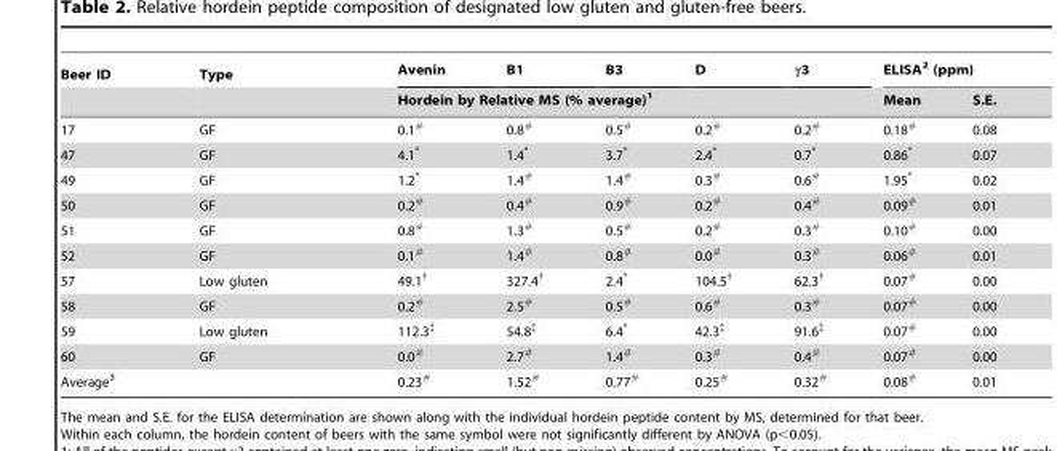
<table><thead><tr><td rowspan="2">Beer ID</td><td rowspan="2">Type</td><td>Avenin</td><td>B1</td><td>B3</td><td>D</td><td>γ3</td><td colspan="2">ELISA<sup>2</sup> (ppm)</td></tr><tr><td colspan="5">Hordein by Relative MS (% average)<sup>1</sup></td><td>Mean</td><td>S.E.</td></tr></thead><tbody><tr><td>17</td><td>GF</td><td>0.1<sup>#</sup></td><td>0.8<sup>#</sup></td><td>0.5<sup>#</sup></td><td>0.2<sup>#</sup></td><td>0.2<sup>#</sup></td><td>0.18<sup>#</sup></td><td>0.08</td></tr><tr><td>47</td><td>GF</td><td>4.1*</td><td>1.4*</td><td>3.7*</td><td>2.4*</td><td>0.7*</td><td>0.86*</td><td>0.07</td></tr><tr><td>49</td><td>GF</td><td>1.2*</td><td>1.4<sup>#</sup></td><td>1.4<sup>#</sup></td><td>0.3<sup>#</sup></td><td>0.6<sup>#</sup></td><td>1.95*</td><td>0.02</td></tr><tr><td>50</td><td>GF</td><td>0.2<sup>#</sup></td><td>0.4<sup>#</sup></td><td>0.9<sup>#</sup></td><td>0.2<sup>#</sup></td><td>0.4<sup>#</sup></td><td>0.09<sup>#</sup></td><td>0.01</td></tr><tr><td>51</td><td>GF</td><td>0.8<sup>#</sup></td><td>1.3<sup>#</sup></td><td>0.5<sup>#</sup></td><td>0.2<sup>#</sup></td><td>0.3<sup>#</sup></td><td>0.10<sup>#</sup></td><td>0.00</td></tr><tr><td>52</td><td>GF</td><td>0.1<sup>#</sup></td><td>1.4<sup>#</sup></td><td>0.8<sup>#</sup></td><td>0.0<sup>#</sup></td><td>0.3<sup>#</sup></td><td>0.06<sup>#</sup></td><td>0.01</td></tr><tr><td>57</td><td>Low gluten</td><td>49.1<sup>†</sup></td><td>327.4<sup>†</sup></td><td>2.4*</td><td>104.5<sup>†</sup></td><td>62.3<sup>†</sup></td><td>0.07<sup>#</sup></td><td>0.00</td></tr><tr><td>58</td><td>GF</td><td>0.2<sup>#</sup></td><td>2.5<sup>#</sup></td><td>0.5<sup>#</sup></td><td>0.6<sup>#</sup></td><td>0.3<sup>#</sup></td><td>0.07<sup>#</sup></td><td>0.00</td></tr><tr><td>59</td><td>Low gluten</td><td>112.3<sup>‡</sup></td><td>54.8<sup>‡</sup></td><td>6.4*</td><td>42.3<sup>‡</sup></td><td>91.6<sup>‡</sup></td><td>0.07<sup>#</sup></td><td>0.00</td></tr><tr><td>60</td><td>GF</td><td>0.0<sup>#</sup></td><td>2.7<sup>#</sup></td><td>1.4<sup>#</sup></td><td>0.3<sup>#</sup></td><td>0.4<sup>#</sup></td><td>0.07<sup>#</sup></td><td>0.00</td></tr><tr><td>Average<sup>3</sup></td><td></td><td>0.23<sup>#</sup></td><td>1.52<sup>#</sup></td><td>0.77<sup>#</sup></td><td>0.25<sup>#</sup></td><td>0.32<sup>#</sup></td><td>0.08<sup>#</sup></td><td>0.01</td></tr></tbody></table>